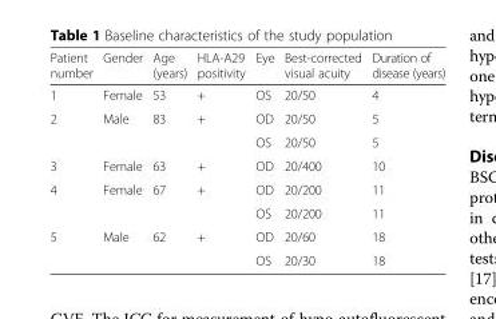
<table><thead><tr><td>Patient number</td><td>Gender</td><td>Age (years)</td><td>HLA-A29 positivity</td><td>Eye</td><td>Best-corrected visual acuity</td><td>Duration of disease (years)</td></tr></thead><tbody><tr><td>1</td><td>Female</td><td>53</td><td>+</td><td>OS</td><td>20/50</td><td>4</td></tr><tr><td rowspan="2">2</td><td rowspan="2">Male</td><td rowspan="2">83</td><td rowspan="2">+</td><td>OD</td><td>20/50</td><td>5</td></tr><tr><td>OS</td><td>20/50</td><td>5</td></tr><tr><td>3</td><td>Female</td><td>63</td><td>+</td><td>OD</td><td>20/400</td><td>10</td></tr><tr><td rowspan="2">4</td><td rowspan="2">Female</td><td rowspan="2">67</td><td rowspan="2">+</td><td>OD</td><td>20/200</td><td>11</td></tr><tr><td>OS</td><td>20/200</td><td>11</td></tr><tr><td rowspan="2">5</td><td rowspan="2">Male</td><td rowspan="2">62</td><td rowspan="2">+</td><td>OD</td><td>20/60</td><td>18</td></tr><tr><td>OS</td><td>20/30</td><td>18</td></tr></tbody></table>